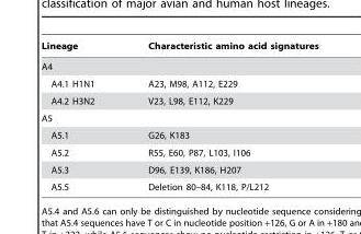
<table><thead><tr><td>Lineage</td><td>Characteristic amino acid signatures</td></tr></thead><tbody><tr><td colspan="2">A4</td></tr><tr><td>A4.1 H1N1</td><td>A23, M98, A112, E229</td></tr><tr><td>A4.2 H3N2</td><td>V23, L98, E112, K229</td></tr><tr><td colspan="2">A5</td></tr><tr><td>A5.1</td><td>G26, K183</td></tr><tr><td>A5.2</td><td>R55, E60, P87, L103, I106</td></tr><tr><td>A5.3</td><td>D96, E139, K186, H207</td></tr><tr><td>A5.5</td><td>Deletion 80–84, K118, P/L212</td></tr></tbody></table>